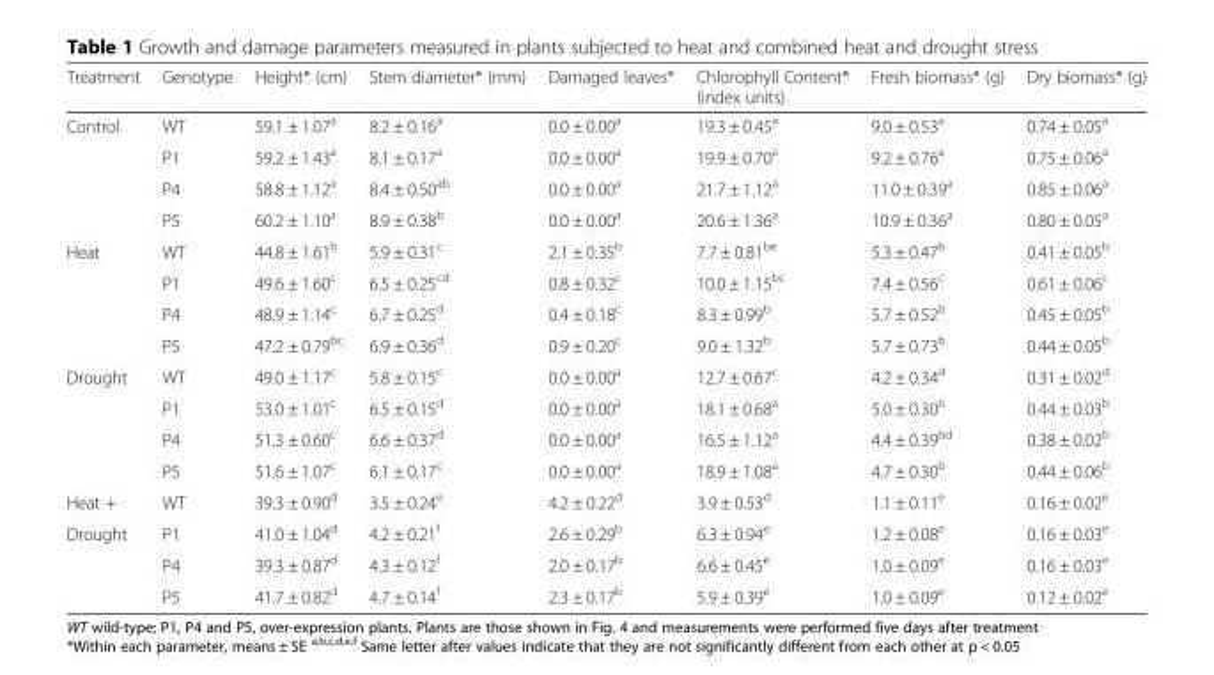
<table><thead><tr><td>Treatment</td><td>Genotype</td><td>Height* (cm)</td><td>Stem diameter* (mm)</td><td>Damaged leaves*</td><td>Chlorophyll Content* (index units)</td><td>Fresh biomass* (g)</td><td>Dry biomass* (g)</td></tr></thead><tbody><tr><td rowspan="4">Control</td><td>WT</td><td>59.1 ± 1.07<sup>a</sup></td><td>8.2 ± 0.16<sup>a</sup></td><td>0.0 ± 0.00<sup>a</sup></td><td>19.3 ± 0.45<sup>a</sup></td><td>9.0 ± 0.53<sup>a</sup></td><td>0.74 ± 0.05<sup>a</sup></td></tr><tr><td>P1</td><td>59.2 ± 1.43<sup>a</sup></td><td>8.1 ± 0.17<sup>a</sup></td><td>0.0 ± 0.00<sup>a</sup></td><td>19.9 ± 0.70<sup>a</sup></td><td>9.2 ± 0.76<sup>a</sup></td><td>0.75 ± 0.06<sup>a</sup></td></tr><tr><td>P4</td><td>58.8 ± 1.12<sup>a</sup></td><td>8.4 ± 0.50<sup>ab</sup></td><td>0.0 ± 0.00<sup>a</sup></td><td>21.7 ± 1.12<sup>a</sup></td><td>11.0 ± 0.39<sup>a</sup></td><td>0.85 ± 0.06<sup>a</sup></td></tr><tr><td>P5</td><td>60.2 ± 1.10<sup>a</sup></td><td>8.9 ± 0.38<sup>b</sup></td><td>0.0 ± 0.00<sup>a</sup></td><td>20.6 ± 1.36<sup>a</sup></td><td>10.9 ± 0.36<sup>a</sup></td><td>0.80 ± 0.05<sup>a</sup></td></tr><tr><td rowspan="4">Heat</td><td>WT</td><td>44.8 ± 1.61<sup>b</sup></td><td>5.9 ± 0.31<sup>c</sup></td><td>2.1 ± 0.35<sup>b</sup></td><td>7.7 ± 0.81<sup>be</sup></td><td>5.3 ± 0.47<sup>b</sup></td><td>0.41 ± 0.05<sup>b</sup></td></tr><tr><td>P1</td><td>49.6 ± 1.60<sup>c</sup></td><td>6.5 ± 0.25<sup>cd</sup></td><td>0.8 ± 0.32<sup>c</sup></td><td>10.0 ± 1.15<sup>bc</sup></td><td>7.4 ± 0.56<sup>c</sup></td><td>0.61 ± 0.06<sup>c</sup></td></tr><tr><td>P4</td><td>48.9 ± 1.14<sup>c</sup></td><td>6.7 ± 0.25<sup>d</sup></td><td>0.4 ± 0.18<sup>c</sup></td><td>8.3 ± 0.99<sup>b</sup></td><td>5.7 ± 0.52<sup>b</sup></td><td>0.45 ± 0.05<sup>b</sup></td></tr><tr><td>P5</td><td>47.2 ± 0.79<sup>bc</sup></td><td>6.9 ± 0.36<sup>d</sup></td><td>0.9 ± 0.20<sup>c</sup></td><td>9.0 ± 1.32<sup>b</sup></td><td>5.7 ± 0.73<sup>b</sup></td><td>0.44 ± 0.05<sup>b</sup></td></tr><tr><td rowspan="4">Drought</td><td>WT</td><td>49.0 ± 1.17<sup>c</sup></td><td>5.8 ± 0.15<sup>c</sup></td><td>0.0 ± 0.00<sup>a</sup></td><td>12.7 ± 0.67<sup>c</sup></td><td>4.2 ± 0.34<sup>d</sup></td><td>0.31 ± 0.02<sup>d</sup></td></tr><tr><td>P1</td><td>53.0 ± 1.01<sup>c</sup></td><td>6.5 ± 0.15<sup>d</sup></td><td>0.0 ± 0.00<sup>a</sup></td><td>18.1 ± 0.68<sup>a</sup></td><td>5.0 ± 0.30<sup>b</sup></td><td>0.44 ± 0.03<sup>b</sup></td></tr><tr><td>P4</td><td>51.3 ± 0.60<sup>c</sup></td><td>6.6 ± 0.37<sup>d</sup></td><td>0.0 ± 0.00<sup>a</sup></td><td>16.5 ± 1.12<sup>a</sup></td><td>4.4 ± 0.39<sup>bd</sup></td><td>0.38 ± 0.02<sup>b</sup></td></tr><tr><td>P5</td><td>51.6 ± 1.07<sup>c</sup></td><td>6.1 ± 0.17<sup>c</sup></td><td>0.0 ± 0.00<sup>a</sup></td><td>18.9 ± 1.08<sup>a</sup></td><td>4.7 ± 0.30<sup>b</sup></td><td>0.44 ± 0.06<sup>b</sup></td></tr><tr><td>Heat +</td><td>WT</td><td>39.3 ± 0.90<sup>d</sup></td><td>3.5 ± 0.24<sup>e</sup></td><td>4.2 ± 0.22<sup>d</sup></td><td>3.9 ± 0.53<sup>d</sup></td><td>1.1 ± 0.11<sup>e</sup></td><td>0.16 ± 0.02<sup>e</sup></td></tr><tr><td rowspan="3">Drought</td><td>P1</td><td>41.0 ± 1.04<sup>d</sup></td><td>4.2 ± 0.21<sup>f</sup></td><td>2.6 ± 0.29<sup>b</sup></td><td>6.3 ± 0.94<sup>e</sup></td><td>1.2 ± 0.08<sup>e</sup></td><td>0.16 ± 0.03<sup>e</sup></td></tr><tr><td>P4</td><td>39.3 ± 0.87<sup>d</sup></td><td>4.3 ± 0.12<sup>f</sup></td><td>2.0 ± 0.17<sup>b</sup></td><td>6.6 ± 0.45<sup>e</sup></td><td>1.0 ± 0.09<sup>e</sup></td><td>0.16 ± 0.03<sup>e</sup></td></tr><tr><td>P5</td><td>41.7 ± 0.82<sup>d</sup></td><td>4.7 ± 0.14<sup>f</sup></td><td>2.3 ± 0.17<sup>b</sup></td><td>5.9 ± 0.39<sup>e</sup></td><td>1.0 ± 0.09<sup>e</sup></td><td>0.12 ± 0.02<sup>e</sup></td></tr></tbody></table>